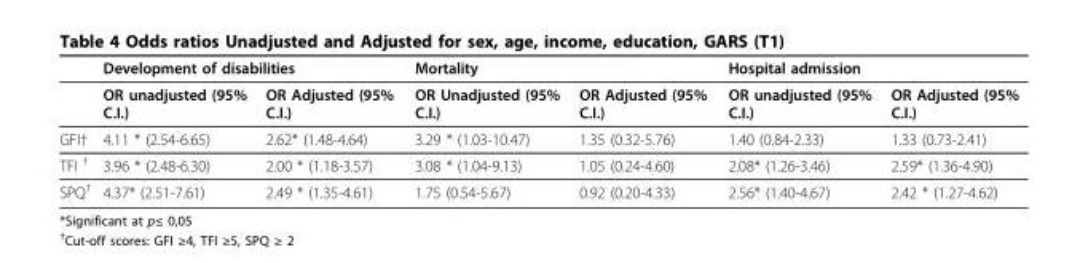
<table><thead><tr><td rowspan="2"></td><td colspan="2">Development of disabilities</td><td colspan="2">Mortality</td><td colspan="2">Hospital admission</td></tr><tr><td>OR unadjusted (95% C.I.)</td><td>OR Adjusted (95% C.I.)</td><td>OR Unadjusted (95% C.I.)</td><td>OR Adjusted (95% C.I.)</td><td>OR unadjusted (95% C.I.)</td><td>OR Adjusted (95% C.I.)</td></tr></thead><tbody><tr><td>GFI†</td><td>4.11 * (2.54-6.65)</td><td>2.62* (1.48-4.64)</td><td>3.29 * (1.03-10.47)</td><td>1.35 (0.32-5.76)</td><td>1.40 (0.84-2.33)</td><td>1.33 (0.73-2.41)</td></tr><tr><td>TFI <sup>†</sup></td><td>3.96 * (2.48-6.30)</td><td>2.00 * (1.18-3.57)</td><td>3.08 * (1.04-9.13)</td><td>1.05 (0.24-4.60)</td><td>2.08* (1.26-3.46)</td><td>2.59* (1.36-4.90)</td></tr><tr><td>SPQ<sup>†</sup></td><td>4.37* (2.51-7.61)</td><td>2.49 * (1.35-4.61)</td><td>1.75 (0.54-5.67)</td><td>0.92 (0.20-4.33)</td><td>2.56* (1.40-4.67)</td><td>2.42 * (1.27-4.62)</td></tr></tbody></table>